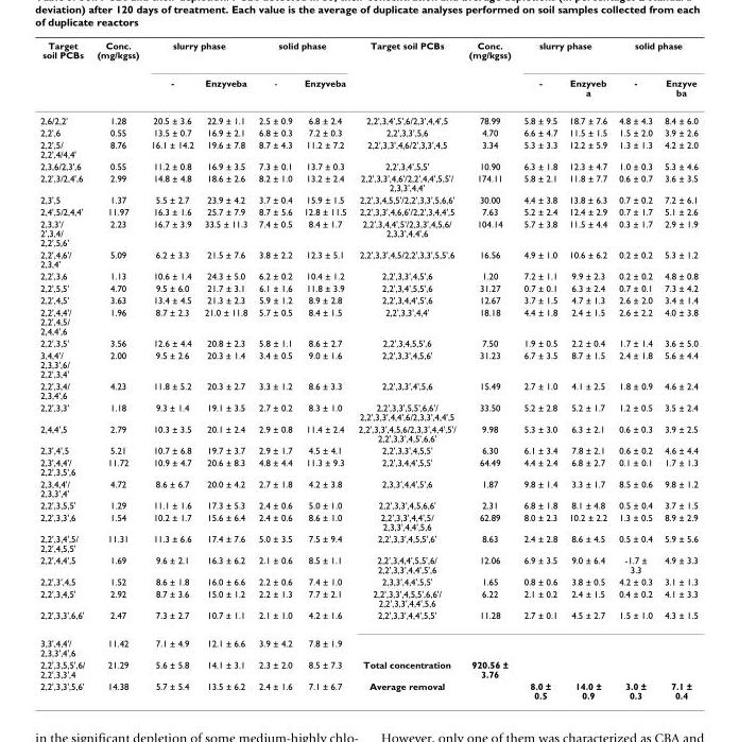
<table><thead><tr><td rowspan="2">Target soil PCBs</td><td rowspan="2">Conc. (mg/kgss)</td><td colspan="2">slurry phase</td><td colspan="2">solid phase</td><td rowspan="2">Target soil PCBs</td><td rowspan="2">Conc. (mg/kgss)</td><td colspan="2">slurry phase</td><td colspan="2">solid phase</td></tr><tr><td>-</td><td>Enzyveba</td><td>-</td><td>Enzyveba</td><td>-</td><td>Enzyveb a</td><td>-</td><td>Enzyve ba</td></tr></thead><tbody><tr><td>2,6/2,2&#x27;</td><td>1.28</td><td>20.5 ± 3.6</td><td>22.9 ± 1.1</td><td>2.5 ± 0.9</td><td>6.8 ± 2.4</td><td>2,2&#x27;,3,4&#x27;,5&#x27;,6/2,3&#x27;,4,4&#x27;,5</td><td>78.99</td><td>5.8 ± 9.5</td><td>18.7 ± 7.6</td><td>4.8 ± 4.3</td><td>8.4 ± 6.0</td></tr><tr><td>2,2&#x27;,6</td><td>0.55</td><td>13.5 ± 0.7</td><td>16.9 ± 2.1</td><td>6.8 ± 0.3</td><td>7.2 ± 0.3</td><td>2,2&#x27;,3,3&#x27;,5,6</td><td>4.70</td><td>6.6 ± 4.7</td><td>11.5 ± 1.5</td><td>1.5 ± 2.0</td><td>3.9 ± 2.6</td></tr><tr><td>2,2&#x27;,5/ 2,2&#x27;,4/4,4&#x27;</td><td>8.76</td><td>16.1 ± 14.2</td><td>19.6 ± 7.8</td><td>8.7 ± 4.3</td><td>11.2 ± 7.2</td><td>2,2&#x27;,3,3&#x27;,4,6/2&#x27;,3,3&#x27;,4,5</td><td>3.34</td><td>5.3 ± 3.3</td><td>12.2 ± 5.9</td><td>1.3 ± 1.3</td><td>4.2 ± 2.0</td></tr><tr><td>2,3,6/2,3&#x27;,6</td><td>0.55</td><td>11.2 ± 0.8</td><td>16.9 ± 3.5</td><td>7.3 ± 0.1</td><td>13.7 ± 0.3</td><td>2,2&#x27;,3,4&#x27;,5,5&#x27;</td><td>10.90</td><td>6.3 ± 1.8</td><td>12.3 ± 4.7</td><td>1.0 ± 0.3</td><td>5.3 ± 4.6</td></tr><tr><td>2,2&#x27;,3/2,4&#x27;,6</td><td>2.99</td><td>14.8 ± 4.8</td><td>18.6 ± 2.6</td><td>8.2 ± 1.0</td><td>13.2 ± 2.4</td><td>2,2&#x27;,3,3&#x27;,4,6&#x27;/2,2&#x27;,4,4&#x27;,5,5&#x27;/ 2,3,3&#x27;,4,4&#x27;</td><td>174.11</td><td>5.8 ± 2.1</td><td>11.8 ± 7.7</td><td>0.6 ± 0.7</td><td>3.6 ± 3.5</td></tr><tr><td>2,3&#x27;,5</td><td>1.37</td><td>5.5 ± 2.7</td><td>23.9 ± 4.2</td><td>3.7 ± 0.4</td><td>15.9 ± 1.5</td><td>2,2&#x27;,3,4,5,5&#x27;/2,2&#x27;,3,3&#x27;,5,6,6&#x27;</td><td>30.00</td><td>4.4 ± 3.8</td><td>13.8 ± 6.3</td><td>0.7 ± 0.2</td><td>7.2 ± 6.1</td></tr><tr><td>2,4&#x27;,5/2,4,4&#x27;</td><td>11.97</td><td>16.3 ± 1.6</td><td>25.7 ± 7.9</td><td>8.7 ± 5.6</td><td>12.8 ± 11.5</td><td>2,2&#x27;,3,3&#x27;,4,6,6&#x27;/2,2&#x27;,3,4,4&#x27;,5</td><td>7.63</td><td>5.2 ± 2.4</td><td>12.4 ± 2.9</td><td>0.7 ± 1.7</td><td>5.1 ± 2.6</td></tr><tr><td>2,3,3&#x27;/ 2&#x27;,3,4/ 2,2&#x27;,5,6&#x27;</td><td>2.23</td><td>16.7 ± 3.9</td><td>33.5 ± 11.3</td><td>7.4 ± 0.5</td><td>8.4 ± 1.7</td><td>2,2&#x27;,3,4,4&#x27;,5&#x27;/2,3,3&#x27;,4,5,6/ 2,3,3&#x27;,4,4&#x27;,6</td><td>104.14</td><td>5.7 ± 3.8</td><td>11.5 ± 4.4</td><td>0.3 ± 1.7</td><td>2.9 ± 1.9</td></tr><tr><td>2,2&#x27;,4,6&#x27;/ 2,3,4&#x27;</td><td>5.09</td><td>6.2 ± 3.3</td><td>21.5 ± 7.6</td><td>3.8 ± 2.2</td><td>12.3 ± 5.1</td><td>2,2&#x27;,3,3&#x27;,4,5/2,2&#x27;,3,3&#x27;,5,5&#x27;,6</td><td>16.56</td><td>4.9 ± 1.0</td><td>10.6 ± 6.2</td><td>0.2 ± 0.2</td><td>5.3 ± 1.2</td></tr><tr><td>2,2&#x27;,3,6</td><td>1.13</td><td>10.6 ± 1.4</td><td>24.3 ± 5.0</td><td>6.2 ± 0.2</td><td>10.4 ± 1.2</td><td>2,2&#x27;,3,3&#x27;,4,5&#x27;,6</td><td>1.20</td><td>7.2 ± 1.1</td><td>9.9 ± 2.3</td><td>0.2 ± 0.2</td><td>4.8 ± 0.8</td></tr><tr><td>2,2&#x27;,5,5&#x27;</td><td>4.70</td><td>9.5 ± 6.0</td><td>21.7 ± 3.1</td><td>6.1 ± 1.6</td><td>11.8 ± 3.9</td><td>2,2&#x27;,3,4&#x27;,5,5&#x27;,6</td><td>31.27</td><td>0.7 ± 0.1</td><td>6.3 ± 2.4</td><td>0.7 ± 0.1</td><td>7.3 ± 4.2</td></tr><tr><td>2,2&#x27;,4,5&#x27;</td><td>3.63</td><td>13.4 ± 4.5</td><td>21.3 ± 2.3</td><td>5.9 ± 1.2</td><td>8.9 ± 2.8</td><td>2,2&#x27;,3,4,4&#x27;,5&#x27;,6</td><td>12.67</td><td>3.7 ± 1.5</td><td>4.7 ± 1.3</td><td>2.6 ± 2.0</td><td>3.4 ± 1.4</td></tr><tr><td>2,2&#x27;,4,4&#x27;/ 2,2&#x27;,4,5/ 2,4,4&#x27;,6</td><td>1.96</td><td>8.7 ± 2.3</td><td>21.0 ± 11.8</td><td>5.7 ± 0.5</td><td>8.4 ± 1.5</td><td>2,2&#x27;,3,3&#x27;,4,4&#x27;</td><td>18.18</td><td>4.4 ± 1.8</td><td>2.4 ± 1.5</td><td>2.6 ± 2.2</td><td>4.0 ± 3.8</td></tr><tr><td>2,2&#x27;,3,5&#x27;</td><td>3.56</td><td>12.6 ± 4.4</td><td>20.8 ± 2.3</td><td>5.8 ± 1.1</td><td>8.6 ± 2.7</td><td>2,2&#x27;,3,4,5,5&#x27;,6</td><td>7.50</td><td>1.9 ± 0.5</td><td>2.2 ± 0.4</td><td>1.7 ± 1.4</td><td>3.6 ± 5.0</td></tr><tr><td>3,4,4&#x27;/ 2,3,3&#x27;,6/ 2,2&#x27;,3,4&#x27;</td><td>2.00</td><td>9.5 ± 2.6</td><td>20.3 ± 1.4</td><td>3.4 ± 0.5</td><td>9.0 ± 1.6</td><td>2,2&#x27;,3,3&#x27;,4,5,6&#x27;</td><td>31.23</td><td>6.7 ± 3.5</td><td>8.7 ± 1.5</td><td>2.4 ± 1.8</td><td>5.6 ± 4.4</td></tr><tr><td>2,2&#x27;,3,4/ 2,3,4&#x27;,6</td><td>4.23</td><td>11.8 ± 5.2</td><td>20.3 ± 2.7</td><td>3.3 ± 1.2</td><td>8.6 ± 3.3</td><td>2,2&#x27;,3,3&#x27;,4&#x27;,5,6</td><td>15.49</td><td>2.7 ± 1.0</td><td>4.1 ± 2.5</td><td>1.8 ± 0.9</td><td>4.6 ± 2.4</td></tr><tr><td>2,2&#x27;,3,3&#x27;</td><td>1.18</td><td>9.3 ± 1.4</td><td>19.1 ± 3.5</td><td>2.7 ± 0.2</td><td>8.3 ± 1.0</td><td>2,2&#x27;,3,3&#x27;,5,5&#x27;,6,6&#x27;/ 2,2&#x27;,3,3&#x27;,4,4&#x27;,6/2,3,3&#x27;,4,4&#x27;,5</td><td>33.50</td><td>5.2 ± 2.8</td><td>5.2 ± 1.7</td><td>1.2 ± 0.5</td><td>3.5 ± 2.4</td></tr><tr><td>2,4,4&#x27;,5</td><td>2.79</td><td>10.3 ± 3.5</td><td>20.1 ± 2.4</td><td>2.9 ± 0.8</td><td>11.4 ± 2.4</td><td>2,2&#x27;,3,3&#x27;,4,5,6/2,3,3&#x27;,4,4&#x27;,5&#x27;/ 2,2&#x27;,3,3&#x27;,4,5&#x27;,6,6&#x27;</td><td>9.98</td><td>5.3 ± 3.0</td><td>6.3 ± 2.1</td><td>0.6 ± 0.3</td><td>3.9 ± 2.5</td></tr><tr><td>2,3&#x27;,4&#x27;,5</td><td>5.21</td><td>10.7 ± 6.8</td><td>19.7 ± 3.7</td><td>2.9 ± 1.7</td><td>4.5 ± 4.1</td><td>2,2&#x27;,3,3&#x27;,4,5,5&#x27;</td><td>6.30</td><td>6.1 ± 3.4</td><td>7.8 ± 2.1</td><td>0.6 ± 0.2</td><td>4.6 ± 4.4</td></tr><tr><td>2,3&#x27;,4,4&#x27;/ 2,2&#x27;,3,5&#x27;,6</td><td>11.72</td><td>10.9 ± 4.7</td><td>20.6 ± 8.3</td><td>4.8 ± 4.4</td><td>11.3 ± 9.3</td><td>2,2&#x27;,3,4,4&#x27;,5,5&#x27;</td><td>64.49</td><td>4.4 ± 2.4</td><td>6.8 ± 2.7</td><td>0.1 ± 0.1</td><td>1.7 ± 1.3</td></tr><tr><td>2,3,4,4&#x27;/ 2,3,3&#x27;,4&#x27;</td><td>4.72</td><td>8.6 ± 6.7</td><td>20.0 ± 4.2</td><td>2.7 ± 1.8</td><td>4.2 ± 3.8</td><td>2,3,3&#x27;,4,4&#x27;,5&#x27;,6</td><td>1.87</td><td>9.8 ± 1.4</td><td>3.3 ± 1.7</td><td>8.5 ± 0.6</td><td>9.8 ± 1.2</td></tr><tr><td>2,2&#x27;,3,5,5&#x27;</td><td>1.29</td><td>11.1 ± 1.6</td><td>17.3 ± 5.3</td><td>2.4 ± 0.6</td><td>5.0 ± 1.0</td><td>2,2&#x27;,3,3&#x27;,4,5,6,6&#x27;</td><td>2.31</td><td>6.8 ± 1.8</td><td>8.1 ± 4.8</td><td>0.5 ± 0.4</td><td>3.7 ± 1.5</td></tr><tr><td>2,2&#x27;,3,3&#x27;,6</td><td>1.54</td><td>10.2 ± 1.7</td><td>15.6 ± 6.4</td><td>2.4 ± 0.6</td><td>8.6 ± 1.0</td><td>2,2&#x27;,3,3&#x27;,4,4&#x27;,5/ 2,3,3&#x27;,4,4&#x27;,5,6</td><td>62.89</td><td>8.0 ± 2.3</td><td>10.2 ± 2.2</td><td>1.3 ± 0.5</td><td>8.9 ± 2.9</td></tr><tr><td>2,2&#x27;,3,4&#x27;,5/ 2,2&#x27;,4,5,5&#x27;</td><td>11.31</td><td>11.3 ± 6.6</td><td>17.4 ± 7.6</td><td>5.0 ± 3.5</td><td>7.5 ± 9.4</td><td>2,2&#x27;,3,3&#x27;,4,5,5&#x27;,6&#x27;</td><td>8.63</td><td>2.4 ± 2.8</td><td>8.6 ± 4.5</td><td>0.5 ± 0.4</td><td>5.9 ± 5.6</td></tr><tr><td>2,2&#x27;,4,4&#x27;,5</td><td>1.69</td><td>9.6 ± 2.1</td><td>16.3 ± 6.2</td><td>2.1 ± 0.6</td><td>8.5 ± 1.1</td><td>2,2&#x27;,3,4,4&#x27;,5,5&#x27;,6/ 2,2&#x27;,3,3&#x27;,4,4&#x27;,5&#x27;,6</td><td>12.06</td><td>6.9 ± 3.5</td><td>9.0 ± 6.4</td><td>-1.7 ± 3.3</td><td>4.9 ± 3.3</td></tr><tr><td>2,2&#x27;,3&#x27;,4,5</td><td>1.52</td><td>8.6 ± 1.8</td><td>16.0 ± 6.6</td><td>2.2 ± 0.6</td><td>7.4 ± 1.0</td><td>2,3,3&#x27;,4,4&#x27;,5,5&#x27;</td><td>1.65</td><td>0.8 ± 0.6</td><td>3.8 ± 0.5</td><td>4.2 ± 0.3</td><td>3.1 ± 1.3</td></tr><tr><td>2,2&#x27;,3,4,5&#x27;</td><td>2.92</td><td>8.7 ± 3.6</td><td>15.0 ± 1.2</td><td>2.2 ± 1.3</td><td>7.7 ± 2.1</td><td>2,2&#x27;,3,3&#x27;,4,5,5&#x27;,6,6&#x27;/ 2,2&#x27;,3,3&#x27;,4,4&#x27;,5,6</td><td>6.22</td><td>2.1 ± 0.2</td><td>2.4 ± 1.5</td><td>0.4 ± 0.2</td><td>4.1 ± 3.3</td></tr><tr><td>2,2&#x27;,3,3&#x27;,6,6&#x27;</td><td>2.47</td><td>7.3 ± 2.7</td><td>10.7 ± 1.1</td><td>2.1 ± 1.0</td><td>4.2 ± 1.6</td><td>2,2&#x27;,3,3&#x27;,4,4&#x27;,5,5&#x27;</td><td>11.28</td><td>2.7 ± 0.1</td><td>4.5 ± 2.7</td><td>1.5 ± 1.0</td><td>4.3 ± 1.5</td></tr><tr><td>3,3&#x27;,4,4&#x27;/ 2,3,3&#x27;,4&#x27;,6</td><td>11.42</td><td>7.1 ± 4.9</td><td>12.1 ± 6.6</td><td>3.9 ± 4.2</td><td>7.8 ± 1.9</td><td></td><td></td><td></td><td></td><td></td><td></td></tr><tr><td>2,2&#x27;,3,5,5&#x27;,6/ 2,2&#x27;,3,3&#x27;,4</td><td>21.29</td><td>5.6 ± 5.8</td><td>14.1 ± 3.1</td><td>2.3 ± 2.0</td><td>8.5 ± 7.3</td><td>Total concentration</td><td>920.56 ± 3.76</td><td></td><td></td><td></td><td></td></tr><tr><td>2,2&#x27;,3,3&#x27;,5,6&#x27;</td><td>14.38</td><td>5.7 ± 5.4</td><td>13.5 ± 6.2</td><td>2.4 ± 1.6</td><td>7.1 ± 6.7</td><td>Average removal</td><td></td><td>8.0 ± 0.5</td><td>14.0 ± 0.9</td><td>3.0 ± 0.3</td><td>7.1 ± 0.4</td></tr></tbody></table>